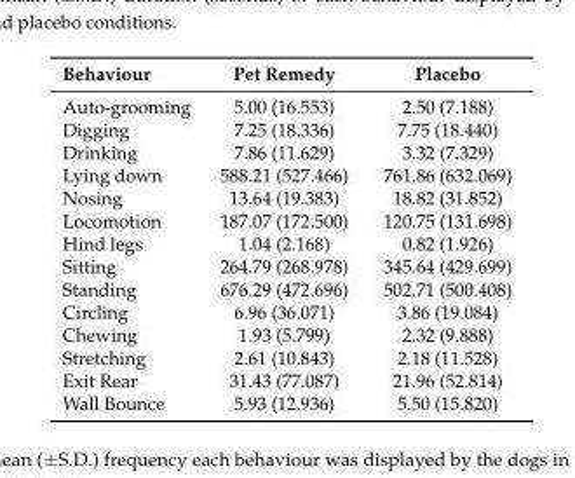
<table><thead><tr><td>Behaviour</td><td>Pet Remedy</td><td>Placebo</td></tr></thead><tbody><tr><td>Auto-grooming</td><td>5.00 (16.553)</td><td>2.50 (7.188)</td></tr><tr><td>Digging</td><td>7.25 (18.336)</td><td>7.75 (18.440)</td></tr><tr><td>Drinking</td><td>7.86 (11.629)</td><td>3.32 (7.329)</td></tr><tr><td>Lying down</td><td>588.21 (527.466)</td><td>761.86 (632.069)</td></tr><tr><td>Nosing</td><td>13.64 (19.383)</td><td>18.82 (31.852)</td></tr><tr><td>Locomotion</td><td>187.07 (172.500)</td><td>120.75 (131.698)</td></tr><tr><td>Hind legs</td><td>1.04 (2.168)</td><td>0.82 (1.926)</td></tr><tr><td>Sitting</td><td>264.79 (268.978)</td><td>345.64 (429.699)</td></tr><tr><td>Standing</td><td>676.29 (472.696)</td><td>502.71 (500.408)</td></tr><tr><td>Circling</td><td>6.96 (36.071)</td><td>3.86 (19.084)</td></tr><tr><td>Chewing</td><td>1.93 (5.799)</td><td>2.32 (9.888)</td></tr><tr><td>Stretching</td><td>2.61 (10.843)</td><td>2.18 (11.528)</td></tr><tr><td>Exit Rear</td><td>31.43 (77.087)</td><td>21.96 (52.814)</td></tr><tr><td>Wall Bounce</td><td>5.93 (12.936)</td><td>5.50 (15.820)</td></tr></tbody></table>